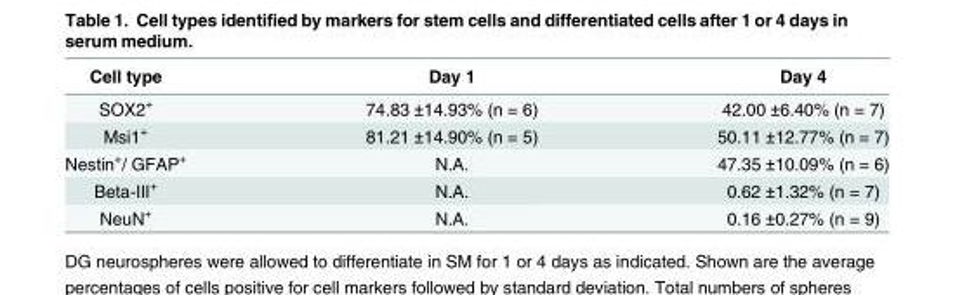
<table><thead><tr><td>Cell type</td><td>Day 1</td><td>Day 4</td></tr></thead><tbody><tr><td>SOX2<sup>+</sup></td><td>74.83 ±14.93% (n = 6)</td><td>42.00 ±6.40% (n = 7)</td></tr><tr><td>Msi1<sup>+</sup></td><td>81.21 ±14.90% (n = 5)</td><td>50.11 ±12.77% (n = 7)</td></tr><tr><td>Nestin<sup>+</sup>/ GFAP<sup>+</sup></td><td>N.A.</td><td>47.35 ±10.09% (n = 6)</td></tr><tr><td>Beta-III<sup>+</sup></td><td>N.A.</td><td>0.62 ±1.32% (n = 7)</td></tr><tr><td>NeuN<sup>+</sup></td><td>N.A.</td><td>0.16 ±0.27% (n = 9)</td></tr></tbody></table>